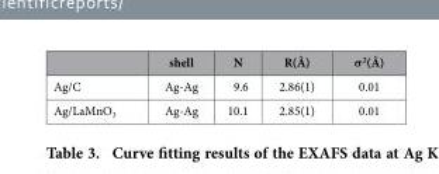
<table><thead><tr><td></td><td>shell</td><td>N</td><td>R(Å)</td><td>σ<sup>2</sup>(Å)</td></tr></thead><tbody><tr><td>Ag/C</td><td>Ag-Ag</td><td>9.6</td><td>2.86(1)</td><td>0.01</td></tr><tr><td>Ag/LaMnO<sub>3</sub></td><td>Ag-Ag</td><td>10.1</td><td>2.85(1)</td><td>0.01</td></tr></tbody></table>